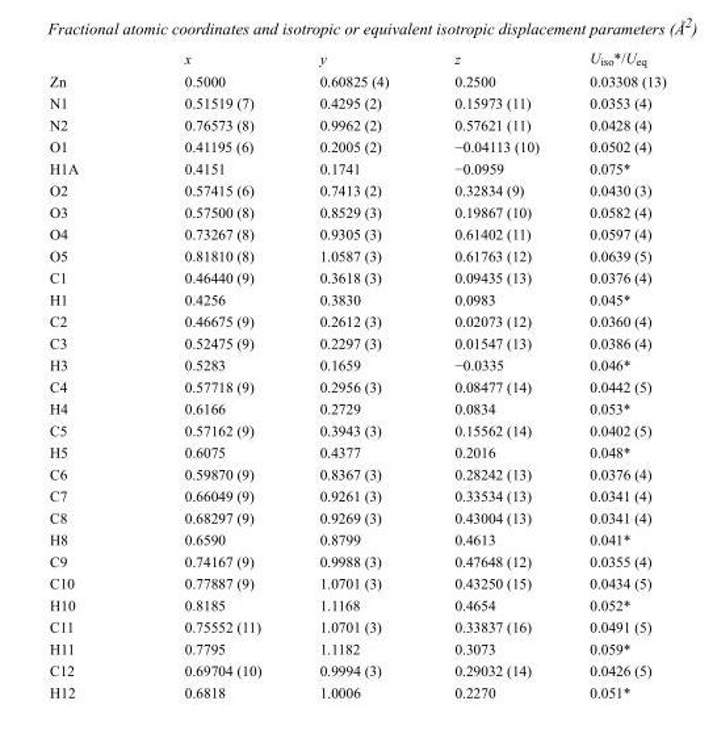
<table><thead><tr><td></td><td>x</td><td>y</td><td>z</td><td>U<sub>iso</sub>*/U<sub>eq</sub></td></tr></thead><tbody><tr><td>Zn</td><td>0.5000</td><td>0.60825 (4)</td><td>0.2500</td><td>0.03308 (13)</td></tr><tr><td>N1</td><td>0.51519 (7)</td><td>0.4295 (2)</td><td>0.15973 (11)</td><td>0.0353 (4)</td></tr><tr><td>N2</td><td>0.76573 (8)</td><td>0.9962 (2)</td><td>0.57621 (11)</td><td>0.0428 (4)</td></tr><tr><td>O1</td><td>0.41195 (6)</td><td>0.2005 (2)</td><td>−0.04113 (10)</td><td>0.0502 (4)</td></tr><tr><td>H1A</td><td>0.4151</td><td>0.1741</td><td>−0.0959</td><td>0.075*</td></tr><tr><td>O2</td><td>0.57415 (6)</td><td>0.7413 (2)</td><td>0.32834 (9)</td><td>0.0430 (3)</td></tr><tr><td>O3</td><td>0.57500 (8)</td><td>0.8529 (3)</td><td>0.19867 (10)</td><td>0.0582 (4)</td></tr><tr><td>O4</td><td>0.73267 (8)</td><td>0.9305 (3)</td><td>0.61402 (11)</td><td>0.0597 (4)</td></tr><tr><td>O5</td><td>0.81810 (8)</td><td>1.0587 (3)</td><td>0.61763 (12)</td><td>0.0639 (5)</td></tr><tr><td>C1</td><td>0.46440 (9)</td><td>0.3618 (3)</td><td>0.09435 (13)</td><td>0.0376 (4)</td></tr><tr><td>H1</td><td>0.4256</td><td>0.3830</td><td>0.0983</td><td>0.045*</td></tr><tr><td>C2</td><td>0.46675 (9)</td><td>0.2612 (3)</td><td>0.02073 (12)</td><td>0.0360 (4)</td></tr><tr><td>C3</td><td>0.52475 (9)</td><td>0.2297 (3)</td><td>0.01547 (13)</td><td>0.0386 (4)</td></tr><tr><td>H3</td><td>0.5283</td><td>0.1659</td><td>−0.0335</td><td>0.046*</td></tr><tr><td>C4</td><td>0.57718 (9)</td><td>0.2956 (3)</td><td>0.08477 (14)</td><td>0.0442 (5)</td></tr><tr><td>H4</td><td>0.6166</td><td>0.2729</td><td>0.0834</td><td>0.053*</td></tr><tr><td>C5</td><td>0.57162 (9)</td><td>0.3943 (3)</td><td>0.15562 (14)</td><td>0.0402 (5)</td></tr><tr><td>H5</td><td>0.6075</td><td>0.4377</td><td>0.2016</td><td>0.048*</td></tr><tr><td>C6</td><td>0.59870 (9)</td><td>0.8367 (3)</td><td>0.28242 (13)</td><td>0.0376 (4)</td></tr><tr><td>C7</td><td>0.66049 (9)</td><td>0.9261 (3)</td><td>0.33534 (13)</td><td>0.0341 (4)</td></tr><tr><td>C8</td><td>0.68297 (9)</td><td>0.9269 (3)</td><td>0.43004 (13)</td><td>0.0341 (4)</td></tr><tr><td>H8</td><td>0.6590</td><td>0.8799</td><td>0.4613</td><td>0.041*</td></tr><tr><td>C9</td><td>0.74167 (9)</td><td>0.9988 (3)</td><td>0.47648 (12)</td><td>0.0355 (4)</td></tr><tr><td>C10</td><td>0.77887 (9)</td><td>1.0701 (3)</td><td>0.43250 (15)</td><td>0.0434 (5)</td></tr><tr><td>H10</td><td>0.8185</td><td>1.1168</td><td>0.4654</td><td>0.052*</td></tr><tr><td>C11</td><td>0.75552 (11)</td><td>1.0701 (3)</td><td>0.33837 (16)</td><td>0.0491 (5)</td></tr><tr><td>H11</td><td>0.7795</td><td>1.1182</td><td>0.3073</td><td>0.059*</td></tr><tr><td>C12</td><td>0.69704 (10)</td><td>0.9994 (3)</td><td>0.29032 (14)</td><td>0.0426 (5)</td></tr><tr><td>H12</td><td>0.6818</td><td>1.0006</td><td>0.2270</td><td>0.051*</td></tr></tbody></table>